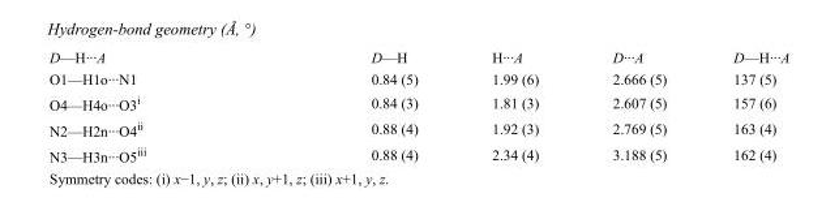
<table><tbody><tr><td>D—H···A</td><td>D—H</td><td>H···A</td><td>D···A</td><td>D—H···A</td></tr><tr><td>O1—H1o···N1</td><td>0.84 (5)</td><td>1.99 (6)</td><td>2.666 (5)</td><td>137 (5)</td></tr><tr><td>O4—H4o···O3<sup>i</sup></td><td>0.84 (3)</td><td>1.81 (3)</td><td>2.607 (5)</td><td>157 (6)</td></tr><tr><td>N2—H2n···O4<sup>ii</sup></td><td>0.88 (4)</td><td>1.92 (3)</td><td>2.769 (5)</td><td>163 (4)</td></tr><tr><td>N3—H3n···O5<sup>iii</sup></td><td>0.88 (4)</td><td>2.34 (4)</td><td>3.188 (5)</td><td>162 (4)</td></tr></tbody></table>